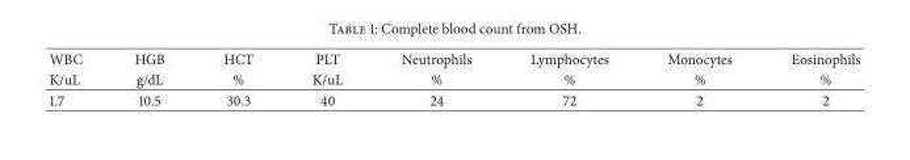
<table><thead><tr><td rowspan="2">WBC K/uL</td><td rowspan="2">HGB g/dL</td><td rowspan="2">HCT %</td><td rowspan="2">PLT K/uL</td><td rowspan="2">Neutrophils %</td><td rowspan="2">Lymphocytes %</td><td rowspan="2">Monocytes %</td><td rowspan="2">Eosinophils %</td></tr><tr></tr></thead><tbody><tr><td>1.7</td><td>10.5</td><td>30.3</td><td>40</td><td>24</td><td>72</td><td>2</td><td>2</td></tr></tbody></table>